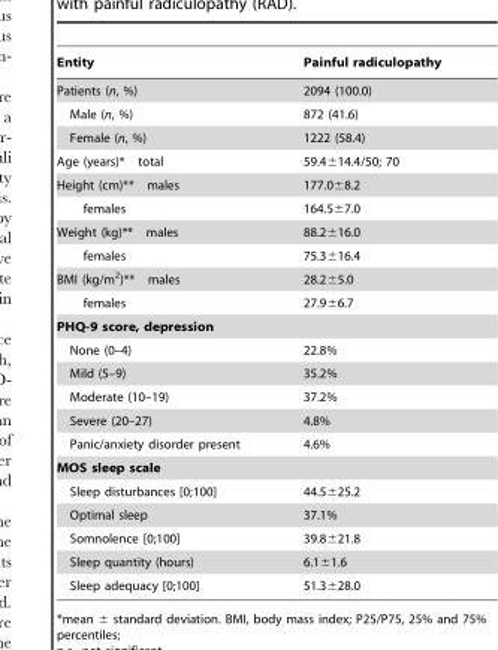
<table><thead><tr><td>Entity</td><td>Painful radiculopathy</td></tr></thead><tbody><tr><td>Patients (n, %)</td><td>2094 (100.0)</td></tr><tr><td>Male (n, %)</td><td>872 (41.6)</td></tr><tr><td>Female (n, %)</td><td>1222 (58.4)</td></tr><tr><td>Age (years)* total</td><td>59.4±14.4/50; 70</td></tr><tr><td>Height (cm)** males</td><td>177.0±8.2</td></tr><tr><td>females</td><td>164.5±7.0</td></tr><tr><td>Weight (kg)** males</td><td>88.2±16.0</td></tr><tr><td>females</td><td>75.3±16.4</td></tr><tr><td>BMI (kg/m<sup>2</sup>)** males</td><td>28.2±5.0</td></tr><tr><td>females</td><td>27.9±6.7</td></tr><tr><td colspan="2">PHQ-9 score, depression</td></tr><tr><td>None (0–4)</td><td>22.8%</td></tr><tr><td>Mild (5–9)</td><td>35.2%</td></tr><tr><td>Moderate (10–19)</td><td>37.2%</td></tr><tr><td>Severe (20–27)</td><td>4.8%</td></tr><tr><td>Panic/anxiety disorder present</td><td>4.6%</td></tr><tr><td colspan="2">MOS sleep scale</td></tr><tr><td>Sleep disturbances [0;100]</td><td>44.5±25.2</td></tr><tr><td>Optimal sleep</td><td>37.1%</td></tr><tr><td>Somnolence [0;100]</td><td>39.8±21.8</td></tr><tr><td>Sleep quantity (hours)</td><td>6.1±1.6</td></tr><tr><td>Sleep adequacy [0;100]</td><td>51.3±28.0</td></tr></tbody></table>